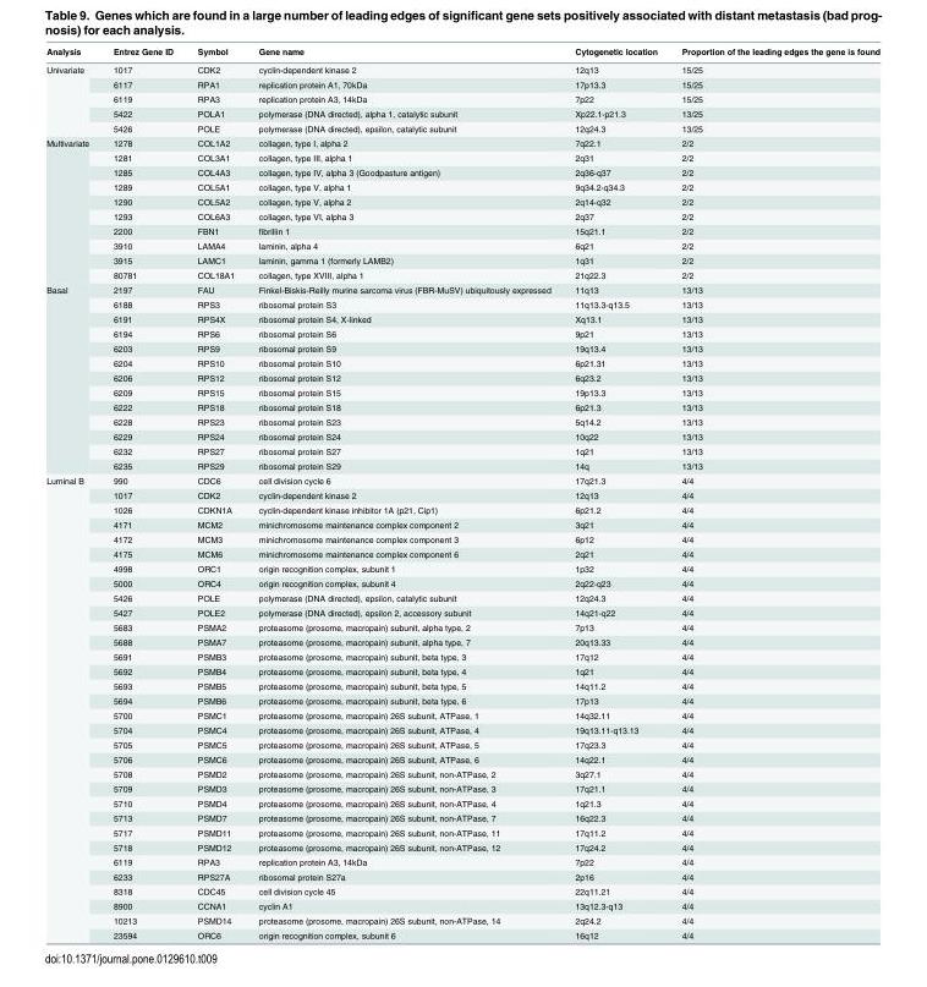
<table><thead><tr><td>Analysis</td><td>Entrez Gene ID</td><td>Symbol</td><td>Gene name</td><td>Cytogenetic location</td><td>Proportion of the leading edges the gene is found</td></tr></thead><tbody><tr><td rowspan="5">Univariate</td><td>1017</td><td>CDK2</td><td>cyclin-dependent kinase 2</td><td>12q13</td><td>15/25</td></tr><tr><td>6117</td><td>RPA1</td><td>replication protein A1, 70kDa</td><td>17p13.3</td><td>15/25</td></tr><tr><td>6119</td><td>RPA3</td><td>replication protein A3, 14kDa</td><td>7p22</td><td>15/25</td></tr><tr><td>5422</td><td>POLA1</td><td>polymerase (DNA directed), alpha 1, catalytic subunit</td><td>Xp22.1-p21.3</td><td>13/25</td></tr><tr><td>5426</td><td>POLE</td><td>polymerase (DNA directed), epsilon, catalytic subunit</td><td>12q24.3</td><td>13/25</td></tr><tr><td rowspan="10">Multivariate</td><td>1278</td><td>COL1A2</td><td>collagen, type I, alpha 2</td><td>7q22.1</td><td>2/2</td></tr><tr><td>1281</td><td>COL3A1</td><td>collagen, type III, alpha 1</td><td>2q31</td><td>2/2</td></tr><tr><td>1285</td><td>COL4A3</td><td>collagen, type IV, alpha 3 (Goodpasture antigen)</td><td>2q36-q37</td><td>2/2</td></tr><tr><td>1289</td><td>COL5A1</td><td>collagen, type V, alpha 1</td><td>9q34.2-q34.3</td><td>2/2</td></tr><tr><td>1290</td><td>COL5A2</td><td>collagen, type V, alpha 2</td><td>2q14-q32</td><td>2/2</td></tr><tr><td>1293</td><td>COL6A3</td><td>collagen, type VI, alpha 3</td><td>2q37</td><td>2/2</td></tr><tr><td>2200</td><td>FBN1</td><td>fibrillin 1</td><td>15q21.1</td><td>2/2</td></tr><tr><td>3910</td><td>LAMA4</td><td>laminin, alpha 4</td><td>6q21</td><td>2/2</td></tr><tr><td>3915</td><td>LAMC1</td><td>laminin, gamma 1 (formerly LAMB2)</td><td>1q31</td><td>2/2</td></tr><tr><td>80781</td><td>COL18A1</td><td>collagen, type XVIII, alpha 1</td><td>21q22.3</td><td>2/2</td></tr><tr><td rowspan="13">Basal</td><td>2197</td><td>FAU</td><td>Finkel-Biskis-Reilly murine sarcoma virus (FBR-MuSV) ubiquitously expressed</td><td>11q13</td><td>13/13</td></tr><tr><td>6188</td><td>RPS3</td><td>ribosomal protein S3</td><td>11q13.3-q13.5</td><td>13/13</td></tr><tr><td>6191</td><td>RPS4X</td><td>ribosomal protein S4, X-linked</td><td>Xq13.1</td><td>13/13</td></tr><tr><td>6194</td><td>RPS6</td><td>ribosomal protein S6</td><td>9p21</td><td>13/13</td></tr><tr><td>6203</td><td>RPS9</td><td>ribosomal protein S9</td><td>19q13.4</td><td>13/13</td></tr><tr><td>6204</td><td>RPS10</td><td>ribosomal protein S10</td><td>6p21.31</td><td>13/13</td></tr><tr><td>6206</td><td>RPS12</td><td>ribosomal protein S12</td><td>6q23.2</td><td>13/13</td></tr><tr><td>6209</td><td>RPS15</td><td>ribosomal protein S15</td><td>19p13.3</td><td>13/13</td></tr><tr><td>6222</td><td>RPS18</td><td>ribosomal protein S18</td><td>6p21.3</td><td>13/13</td></tr><tr><td>6228</td><td>RPS23</td><td>ribosomal protein S23</td><td>5q14.2</td><td>13/13</td></tr><tr><td>6229</td><td>RPS24</td><td>ribosomal protein S24</td><td>10q22</td><td>13/13</td></tr><tr><td>6232</td><td>RPS27</td><td>ribosomal protein S27</td><td>1q21</td><td>13/13</td></tr><tr><td>6235</td><td>RPS29</td><td>ribosomal protein S29</td><td>14q</td><td>13/13</td></tr><tr><td rowspan="32">Luminal B</td><td>990</td><td>CDC6</td><td>cell division cycle 6</td><td>17q21.3</td><td>4/4</td></tr><tr><td>1017</td><td>CDK2</td><td>cyclin-dependent kinase 2</td><td>12q13</td><td>4/4</td></tr><tr><td>1026</td><td>CDKN1A</td><td>cyclin-dependent kinase inhibitor 1A (p21, Cip1)</td><td>6p21.2</td><td>4/4</td></tr><tr><td>4171</td><td>MCM2</td><td>minichromosome maintenance complex component 2</td><td>3q21</td><td>4/4</td></tr><tr><td>4172</td><td>MCM3</td><td>minichromosome maintenance complex component 3</td><td>6p12</td><td>4/4</td></tr><tr><td>4175</td><td>MCM6</td><td>minichromosome maintenance complex component 6</td><td>2q21</td><td>4/4</td></tr><tr><td>4998</td><td>ORC1</td><td>origin recognition complex, subunit 1</td><td>1p32</td><td>4/4</td></tr><tr><td>5000</td><td>ORC4</td><td>origin recognition complex, subunit 4</td><td>2q22-q23</td><td>4/4</td></tr><tr><td>5426</td><td>POLE</td><td>polymerase (DNA directed), epsilon, catalytic subunit</td><td>12q24.3</td><td>4/4</td></tr><tr><td>5427</td><td>POLE2</td><td>polymerase (DNA directed), epsilon 2, accessory subunit</td><td>14q21-q22</td><td>4/4</td></tr><tr><td>5683</td><td>PSMA2</td><td>proteasome (prosome, macropain) subunit, alpha type, 2</td><td>7p13</td><td>4/4</td></tr><tr><td>5688</td><td>PSMA7</td><td>proteasome (prosome, macropain) subunit, alpha type, 7</td><td>20q13.33</td><td>4/4</td></tr><tr><td>5691</td><td>PSMB3</td><td>proteasome (prosome, macropain) subunit, beta type, 3</td><td>17q12</td><td>4/4</td></tr><tr><td>5692</td><td>PSMB4</td><td>proteasome (prosome, macropain) subunit, beta type, 4</td><td>1q21</td><td>4/4</td></tr><tr><td>5693</td><td>PSMB5</td><td>proteasome (prosome, macropain) subunit, beta type, 5</td><td>14q11.2</td><td>4/4</td></tr><tr><td>5694</td><td>PSMB6</td><td>proteasome (prosome, macropain) subunit, beta type, 6</td><td>17p13</td><td>4/4</td></tr><tr><td>5700</td><td>PSMC1</td><td>proteasome (prosome, macropain) 26S subunit, ATPase, 1</td><td>14q32.11</td><td>4/4</td></tr><tr><td>5704</td><td>PSMC4</td><td>proteasome (prosome, macropain) 26S subunit, ATPase, 4</td><td>19q13.11-q13.13</td><td>4/4</td></tr><tr><td>5705</td><td>PSMC5</td><td>proteasome (prosome, macropain) 26S subunit, ATPase, 5</td><td>17q23.3</td><td>4/4</td></tr><tr><td>5706</td><td>PSMC6</td><td>proteasome (prosome, macropain) 26S subunit, ATPase, 6</td><td>14q22.1</td><td>4/4</td></tr><tr><td>5708</td><td>PSMD2</td><td>proteasome (prosome, macropain) 26S subunit, non-ATPase, 2</td><td>3q27.1</td><td>4/4</td></tr><tr><td>5709</td><td>PSMD3</td><td>proteasome (prosome, macropain) 26S subunit, non-ATPase, 3</td><td>17q21.1</td><td>4/4</td></tr><tr><td>5710</td><td>PSMD4</td><td>proteasome (prosome, macropain) 26S subunit, non-ATPase, 4</td><td>1q21.3</td><td>4/4</td></tr><tr><td>5713</td><td>PSMD7</td><td>proteasome (prosome, macropain) 26S subunit, non-ATPase, 7</td><td>16q22.3</td><td>4/4</td></tr><tr><td>5717</td><td>PSMD11</td><td>proteasome (prosome, macropain) 26S subunit, non-ATPase, 11</td><td>17q11.2</td><td>4/4</td></tr><tr><td>5718</td><td>PSMD12</td><td>proteasome (prosome, macropain) 26S subunit, non-ATPase, 12</td><td>17q24.2</td><td>4/4</td></tr><tr><td>6119</td><td>RPA3</td><td>replication protein A3, 14kDa</td><td>7p22</td><td>4/4</td></tr><tr><td>6233</td><td>RPS27A</td><td>ribosomal protein S27a</td><td>2p16</td><td>4/4</td></tr><tr><td>8318</td><td>CDC45</td><td>cell division cycle 45</td><td>22q11.21</td><td>4/4</td></tr><tr><td>8900</td><td>CCNA1</td><td>cyclin A1</td><td>13q12.3-q13</td><td>4/4</td></tr><tr><td>10213</td><td>PSMD14</td><td>proteasome (prosome, macropain) 26S subunit, non-ATPase, 14</td><td>2q24.2</td><td>4/4</td></tr><tr><td>23594</td><td>ORC6</td><td>origin recognition complex, subunit 6</td><td>16q12</td><td>4/4</td></tr></tbody></table>